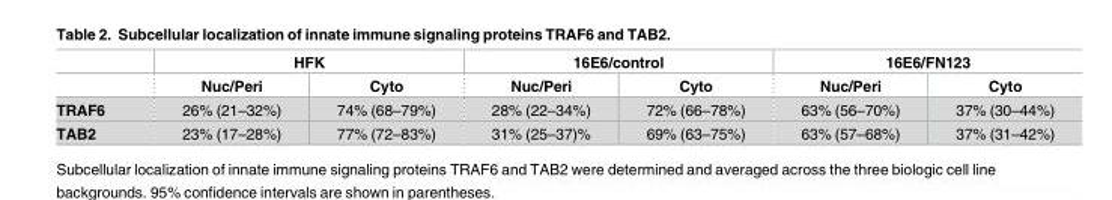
<table><thead><tr><td rowspan="2"></td><td colspan="2">HFK</td><td colspan="2">16E6/control</td><td colspan="2">16E6/FN123</td></tr><tr><td>Nuc/Peri</td><td>Cyto</td><td>Nuc/Peri</td><td>Cyto</td><td>Nuc/Peri</td><td>Cyto</td></tr></thead><tbody><tr><td>TRAF6</td><td>26% (21–32%)</td><td>74% (68–79%)</td><td>28% (22–34%)</td><td>72% (66–78%)</td><td>63% (56–70%)</td><td>37% (30–44%)</td></tr><tr><td>TAB2</td><td>23% (17–28%)</td><td>77% (72–83%)</td><td>31% (25–37)%</td><td>69% (63–75%)</td><td>63% (57–68%)</td><td>37% (31–42%)</td></tr></tbody></table>